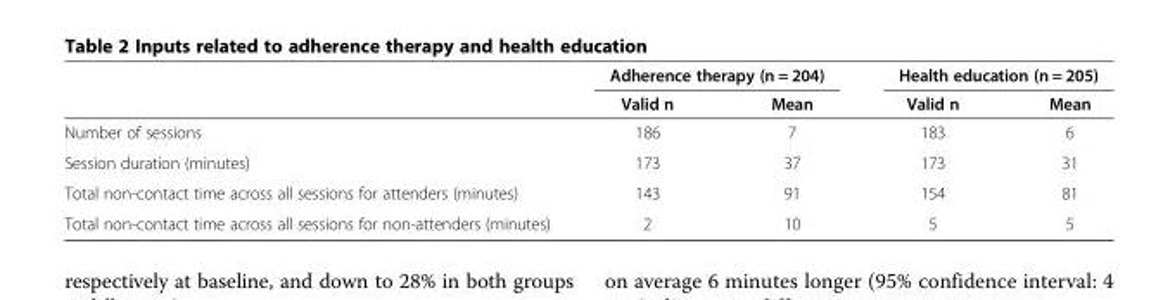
<table><thead><tr><td rowspan="2"></td><td colspan="2">Adherence therapy (n = 204)</td><td colspan="2">Health education (n = 205)</td></tr><tr><td>Valid n</td><td>Mean</td><td>Valid n</td><td>Mean</td></tr></thead><tbody><tr><td>Number of sessions</td><td>186</td><td>7</td><td>183</td><td>6</td></tr><tr><td>Session duration (minutes)</td><td>173</td><td>37</td><td>173</td><td>31</td></tr><tr><td>Total non-contact time across all sessions for attenders (minutes)</td><td>143</td><td>91</td><td>154</td><td>81</td></tr><tr><td>Total non-contact time across all sessions for non-attenders (minutes)</td><td>2</td><td>10</td><td>5</td><td>5</td></tr></tbody></table>